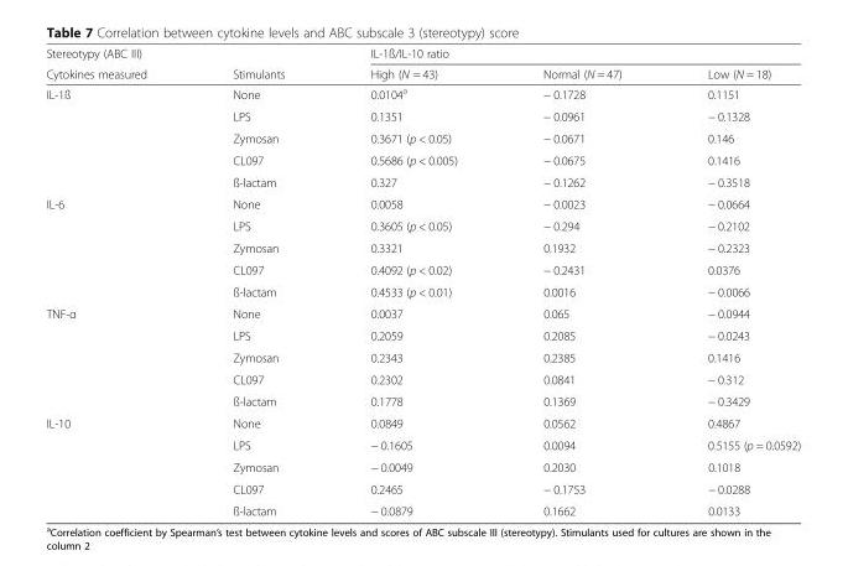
<table><thead><tr><td rowspan="2">Stereotypy (ABC III) Cytokines measured</td><td rowspan="2">Stimulants</td><td colspan="3">IL-1ß/IL-10 ratio</td></tr><tr><td>High (N = 43)</td><td>Normal (N = 47)</td><td>Low (N = 18)</td></tr></thead><tbody><tr><td rowspan="5">IL-1ß</td><td>None</td><td>0.0104<sup>a</sup></td><td>− 0.1728</td><td>0.1151</td></tr><tr><td>LPS</td><td>0.1351</td><td>− 0.0961</td><td>− 0.1328</td></tr><tr><td>Zymosan</td><td>0.3671 (p &lt; 0.05)</td><td>− 0.0671</td><td>0.146</td></tr><tr><td>CL097</td><td>0.5686 (p &lt; 0.005)</td><td>− 0.0675</td><td>0.1416</td></tr><tr><td>ß-lactam</td><td>0.327</td><td>− 0.1262</td><td>− 0.3518</td></tr><tr><td rowspan="5">IL-6</td><td>None</td><td>0.0058</td><td>− 0.0023</td><td>− 0.0664</td></tr><tr><td>LPS</td><td>0.3605 (p &lt; 0.05)</td><td>− 0.294</td><td>− 0.2102</td></tr><tr><td>Zymosan</td><td>0.3321</td><td>0.1932</td><td>− 0.2323</td></tr><tr><td>CL097</td><td>0.4092 (p &lt; 0.02)</td><td>− 0.2431</td><td>0.0376</td></tr><tr><td>ß-lactam</td><td>0.4533 (p &lt; 0.01)</td><td>0.0016</td><td>− 0.0066</td></tr><tr><td rowspan="5">TNF-α</td><td>None</td><td>0.0037</td><td>0.065</td><td>− 0.0944</td></tr><tr><td>LPS</td><td>0.2059</td><td>0.2085</td><td>− 0.0243</td></tr><tr><td>Zymosan</td><td>0.2343</td><td>0.2385</td><td>0.1416</td></tr><tr><td>CL097</td><td>0.2302</td><td>0.0841</td><td>− 0.312</td></tr><tr><td>ß-lactam</td><td>0.1778</td><td>0.1369</td><td>− 0.3429</td></tr><tr><td rowspan="5">IL-10</td><td>None</td><td>0.0849</td><td>0.0562</td><td>0.4867</td></tr><tr><td>LPS</td><td>− 0.1605</td><td>0.0094</td><td>0.5155 (p = 0.0592)</td></tr><tr><td>Zymosan</td><td>− 0.0049</td><td>0.2030</td><td>0.1018</td></tr><tr><td>CL097</td><td>0.2465</td><td>− 0.1753</td><td>− 0.0288</td></tr><tr><td>ß-lactam</td><td>− 0.0879</td><td>0.1662</td><td>0.0133</td></tr></tbody></table>